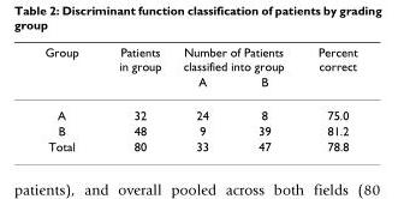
<table><thead><tr><td rowspan="2">Group</td><td rowspan="2">Patients in group</td><td colspan="2">Number of Patients classified into group</td><td rowspan="2">Percent correct</td></tr><tr><td>A</td><td>B</td></tr></thead><tbody><tr><td>A</td><td>32</td><td>24</td><td>8</td><td>75.0</td></tr><tr><td>B</td><td>48</td><td>9</td><td>39</td><td>81.2</td></tr><tr><td>Total</td><td>80</td><td>33</td><td>47</td><td>78.8</td></tr></tbody></table>